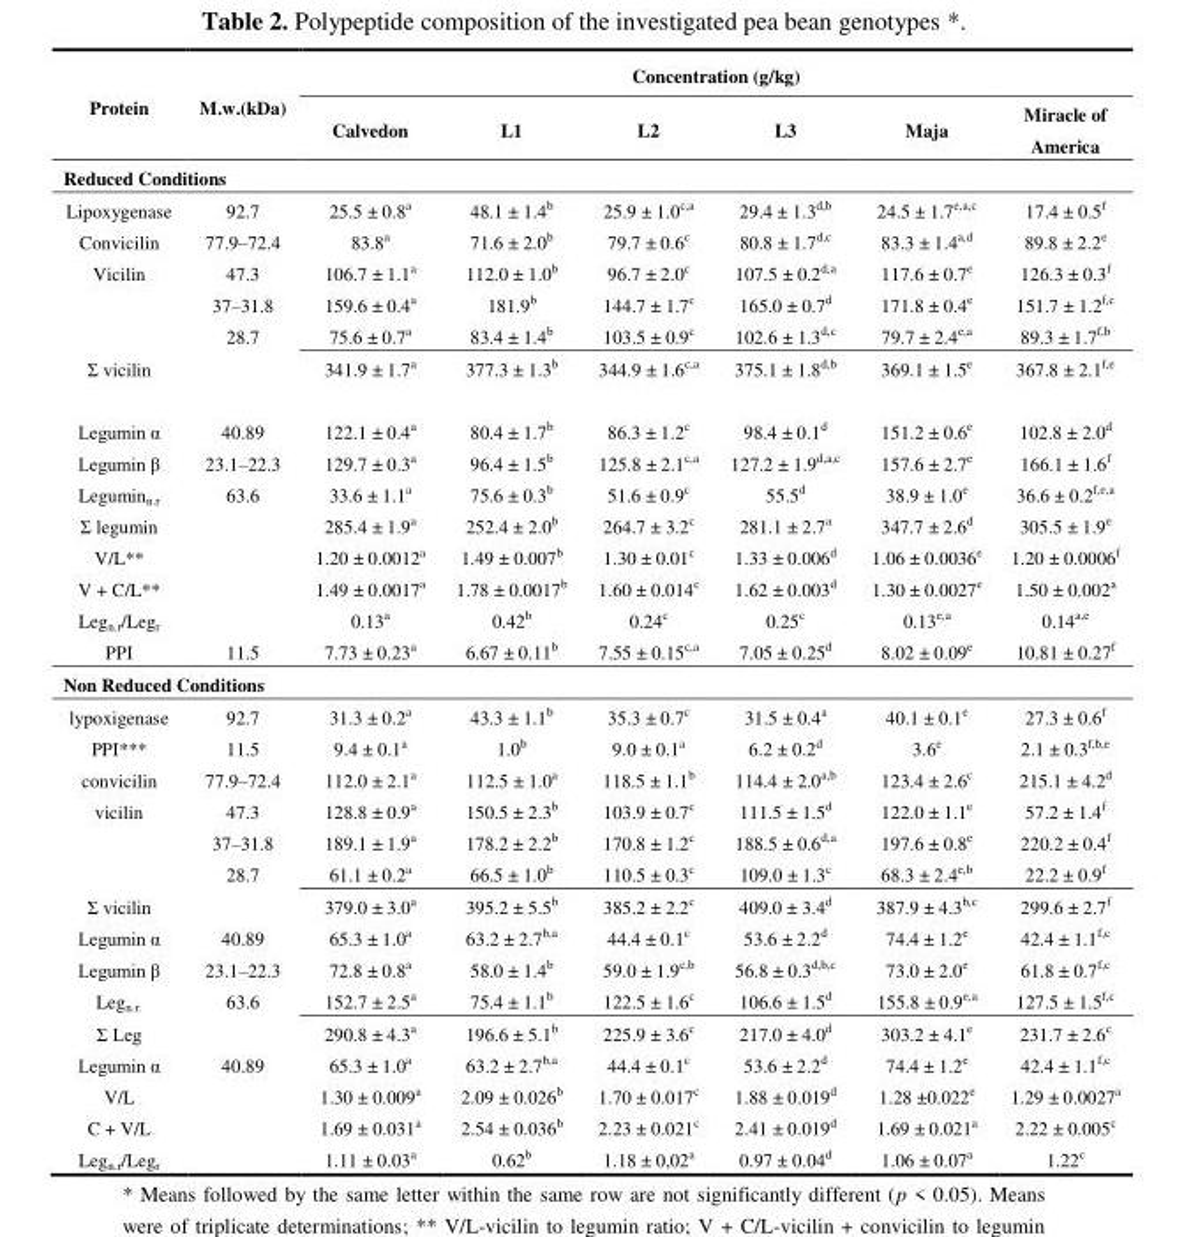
<table><thead><tr><td rowspan="2">Protein</td><td rowspan="2">M.w.(kDa)</td><td colspan="6">Concentration (g/kg)</td></tr><tr><td>Calvedon</td><td>L1</td><td>L2</td><td>L3</td><td>Maja</td><td>Miracle of America</td></tr></thead><tbody><tr><td colspan="8">Reduced Conditions</td></tr><tr><td>Lipoxygenase</td><td>92.7</td><td>25.5 ± 0.8<sup>a</sup></td><td>48.1 ± 1.4<sup>b</sup></td><td>25.9 ± 1.0<sup>c,a</sup></td><td>29.4 ± 1.3<sup>d,b</sup></td><td>24.5 ± 1.7<sup>e,a,c</sup></td><td>17.4 ± 0.5<sup>f</sup></td></tr><tr><td>Convicilin</td><td>77.9–72.4</td><td>83.8<sup>a</sup></td><td>71.6 ± 2.0<sup>b</sup></td><td>79.7 ± 0.6<sup>c</sup></td><td>80.8 ± 1.7<sup>d,c</sup></td><td>83.3 ± 1.4<sup>a,d</sup></td><td>89.8 ± 2.2<sup>e</sup></td></tr><tr><td rowspan="3">Vicilin</td><td>47.3</td><td>106.7 ± 1.1<sup>a</sup></td><td>112.0 ± 1.0<sup>b</sup></td><td>96.7 ± 2.0<sup>c</sup></td><td>107.5 ± 0.2<sup>d,a</sup></td><td>117.6 ± 0.7<sup>e</sup></td><td>126.3 ± 0.3<sup>f</sup></td></tr><tr><td>37–31.8</td><td>159.6 ± 0.4<sup>a</sup></td><td>181.9<sup>b</sup></td><td>144.7 ± 1.7<sup>c</sup></td><td>165.0 ± 0.7<sup>d</sup></td><td>171.8 ± 0.4<sup>e</sup></td><td>151.7 ± 1.2<sup>f,c</sup></td></tr><tr><td>28.7</td><td>75.6 ± 0.7<sup>a</sup></td><td>83.4 ± 1.4<sup>b</sup></td><td>103.5 ± 0.9<sup>c</sup></td><td>102.6 ± 1.3<sup>d,c</sup></td><td>79.7 ± 2.4<sup>e,a</sup></td><td>89.3 ± 1.7<sup>f,b</sup></td></tr><tr><td>Σ vicilin</td><td></td><td>341.9 ± 1.7<sup>a</sup></td><td>377.3 ± 1.3<sup>b</sup></td><td>344.9 ± 1.6<sup>c,a</sup></td><td>375.1 ± 1.8<sup>d,b</sup></td><td>369.1 ± 1.5<sup>e</sup></td><td>367.8 ± 2.1<sup>f,e</sup></td></tr><tr><td>Legumin α</td><td>40.89</td><td>122.1 ± 0.4<sup>a</sup></td><td>80.4 ± 1.7<sup>b</sup></td><td>86.3 ± 1.2<sup>c</sup></td><td>98.4 ± 0.1<sup>d</sup></td><td>151.2 ± 0.6<sup>e</sup></td><td>102.8 ± 2.0<sup>d</sup></td></tr><tr><td>Legumin β</td><td>23.1–22.3</td><td>129.7 ± 0.3<sup>a</sup></td><td>96.4 ± 1.5<sup>b</sup></td><td>125.8 ± 2.1<sup>c,a</sup></td><td>127.2 ± 1.9<sup>d,a,c</sup></td><td>157.6 ± 2.7<sup>e</sup></td><td>166.1 ± 1.6<sup>f</sup></td></tr><tr><td>Legumin<sub>n.r</sub></td><td>63.6</td><td>33.6 ± 1.1<sup>a</sup></td><td>75.6 ± 0.3<sup>b</sup></td><td>51.6 ± 0.9<sup>c</sup></td><td>55.5<sup>d</sup></td><td>38.9 ± 1.0<sup>e</sup></td><td>36.6 ± 0.2<sup>f,e,a</sup></td></tr><tr><td>Σ legumin</td><td></td><td>285.4 ± 1.9<sup>a</sup></td><td>252.4 ± 2.0<sup>b</sup></td><td>264.7 ± 3.2<sup>c</sup></td><td>281.1 ± 2.7<sup>a</sup></td><td>347.7 ± 2.6<sup>d</sup></td><td>305.5 ± 1.9<sup>e</sup></td></tr><tr><td>V/L**</td><td></td><td>1.20 ± 0.0012<sup>a</sup></td><td>1.49 ± 0.007<sup>b</sup></td><td>1.30 ± 0.01<sup>c</sup></td><td>1.33 ± 0.006<sup>d</sup></td><td>1.06 ± 0.0036<sup>e</sup></td><td>1.20 ± 0.0006<sup>f</sup></td></tr><tr><td>V + C/L**</td><td></td><td>1.49 ± 0.0017<sup>a</sup></td><td>1.78 ± 0.0017<sup>b</sup></td><td>1.60 ± 0.014<sup>c</sup></td><td>1.62 ± 0.003<sup>d</sup></td><td>1.30 ± 0.0027<sup>e</sup></td><td>1.50 ± 0.002<sup>a</sup></td></tr><tr><td>Leg<sub>n.r</sub>/Leg<sub>r</sub></td><td></td><td>0.13<sup>a</sup></td><td>0.42<sup>b</sup></td><td>0.24<sup>c</sup></td><td>0.25<sup>c</sup></td><td>0.13<sup>e,a</sup></td><td>0.14<sup>a,e</sup></td></tr><tr><td>PPI</td><td>11.5</td><td>7.73 ± 0.23<sup>a</sup></td><td>6.67 ± 0.11<sup>b</sup></td><td>7.55 ± 0.15<sup>c,a</sup></td><td>7.05 ± 0.25<sup>d</sup></td><td>8.02 ± 0.09<sup>e</sup></td><td>10.81 ± 0.27<sup>f</sup></td></tr><tr><td colspan="8">Non Reduced Conditions</td></tr><tr><td>lypoxigenase</td><td>92.7</td><td>31.3 ± 0.2<sup>a</sup></td><td>43.3 ± 1.1<sup>b</sup></td><td>35.3 ± 0.7<sup>c</sup></td><td>31.5 ± 0.4<sup>a</sup></td><td>40.1 ± 0.1<sup>e</sup></td><td>27.3 ± 0.6<sup>f</sup></td></tr><tr><td>PPI***</td><td>11.5</td><td>9.4 ± 0.1<sup>a</sup></td><td>1.0<sup>b</sup></td><td>9.0 ± 0.1<sup>a</sup></td><td>6.2 ± 0.2<sup>d</sup></td><td>3.6<sup>e</sup></td><td>2.1 ± 0.3<sup>f,b,e</sup></td></tr><tr><td>convicilin</td><td>77.9–72.4</td><td>112.0 ± 2.1<sup>a</sup></td><td>112.5 ± 1.0<sup>a</sup></td><td>118.5 ± 1.1<sup>b</sup></td><td>114.4 ± 2.0<sup>a,b</sup></td><td>123.4 ± 2.6<sup>c</sup></td><td>215.1 ± 4.2<sup>d</sup></td></tr><tr><td rowspan="3">vicilin</td><td>47.3</td><td>128.8 ± 0.9<sup>a</sup></td><td>150.5 ± 2.3<sup>b</sup></td><td>103.9 ± 0.7<sup>c</sup></td><td>111.5 ± 1.5<sup>d</sup></td><td>122.0 ± 1.1<sup>e</sup></td><td>57.2 ± 1.4<sup>f</sup></td></tr><tr><td>37–31.8</td><td>189.1 ± 1.9<sup>a</sup></td><td>178.2 ± 2.2<sup>b</sup></td><td>170.8 ± 1.2<sup>c</sup></td><td>188.5 ± 0.6<sup>d,a</sup></td><td>197.6 ± 0.8<sup>e</sup></td><td>220.2 ± 0.4<sup>f</sup></td></tr><tr><td>28.7</td><td>61.1 ± 0.2<sup>a</sup></td><td>66.5 ± 1.0<sup>b</sup></td><td>110.5 ± 0.3<sup>c</sup></td><td>109.0 ± 1.3<sup>c</sup></td><td>68.3 ± 2.4<sup>e,b</sup></td><td>22.2 ± 0.9<sup>f</sup></td></tr><tr><td>Σ vicilin</td><td></td><td>379.0 ± 3.0<sup>a</sup></td><td>395.2 ± 5.5<sup>b</sup></td><td>385.2 ± 2.2<sup>c</sup></td><td>409.0 ± 3.4<sup>d</sup></td><td>387.9 ± 4.3<sup>b,c</sup></td><td>299.6 ± 2.7<sup>f</sup></td></tr><tr><td>Legumin α</td><td>40.89</td><td>65.3 ± 1.0<sup>a</sup></td><td>63.2 ± 2.7<sup>b,a</sup></td><td>44.4 ± 0.1<sup>c</sup></td><td>53.6 ± 2.2<sup>d</sup></td><td>74.4 ± 1.2<sup>e</sup></td><td>42.4 ± 1.1<sup>f,c</sup></td></tr><tr><td>Legumin β</td><td>23.1–22.3</td><td>72.8 ± 0.8<sup>a</sup></td><td>58.0 ± 1.4<sup>b</sup></td><td>59.0 ± 1.9<sup>c,b</sup></td><td>56.8 ± 0.3<sup>d,b,c</sup></td><td>73.0 ± 2.0<sup>e</sup></td><td>61.8 ± 0.7<sup>f,c</sup></td></tr><tr><td>Leg<sub>n.r.</sub></td><td>63.6</td><td>152.7 ± 2.5<sup>a</sup></td><td>75.4 ± 1.1<sup>b</sup></td><td>122.5 ± 1.6<sup>c</sup></td><td>106.6 ± 1.5<sup>d</sup></td><td>155.8 ± 0.9<sup>e,a</sup></td><td>127.5 ± 1.5<sup>f,c</sup></td></tr><tr><td>Σ Leg</td><td></td><td>290.8 ± 4.3<sup>a</sup></td><td>196.6 ± 5.1<sup>b</sup></td><td>225.9 ± 3.6<sup>c</sup></td><td>217.0 ± 4.0<sup>d</sup></td><td>303.2 ± 4.1<sup>e</sup></td><td>231.7 ± 2.6<sup>c</sup></td></tr><tr><td>Legumin α</td><td>40.89</td><td>65.3 ± 1.0<sup>a</sup></td><td>63.2 ± 2.7<sup>b,a</sup></td><td>44.4 ± 0.1<sup>c</sup></td><td>53.6 ± 2.2<sup>d</sup></td><td>74.4 ± 1.2<sup>e</sup></td><td>42.4 ± 1.1<sup>f,c</sup></td></tr><tr><td>V/L</td><td></td><td>1.30 ± 0.009<sup>a</sup></td><td>2.09 ± 0.026<sup>b</sup></td><td>1.70 ± 0.017<sup>c</sup></td><td>1.88 ± 0.019<sup>d</sup></td><td>1.28 ±0.022<sup>e</sup></td><td>1.29 ± 0.0027<sup>a</sup></td></tr><tr><td>C + V/L</td><td></td><td>1.69 ± 0.031<sup>a</sup></td><td>2.54 ± 0.036<sup>b</sup></td><td>2.23 ± 0.021<sup>c</sup></td><td>2.41 ± 0.019<sup>d</sup></td><td>1.69 ± 0.021<sup>a</sup></td><td>2.22 ± 0.005<sup>c</sup></td></tr><tr><td>Leg<sub>n.r</sub>/Leg<sub>r</sub></td><td></td><td>1.11 ± 0.03<sup>a</sup></td><td>0.62<sup>b</sup></td><td>1.18 ± 0,02<sup>a</sup></td><td>0.97 ± 0.04<sup>d</sup></td><td>1.06 ± 0.07<sup>a</sup></td><td>1.22<sup>c</sup></td></tr></tbody></table>